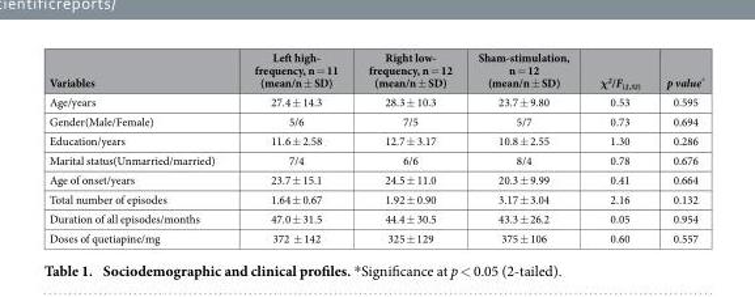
<table><thead><tr><td>Variables</td><td>Left high- frequency, n = 11 (mean/n ± SD)</td><td>Right low- frequency, n = 12 (mean/n ± SD)</td><td>Sham-stimulation, n = 12 (mean/n ± SD)</td><td>χ<sup>2</sup>/F<sub>(2,32)</sub></td><td>p value*</td></tr></thead><tbody><tr><td>Age/years</td><td>27.4 ± 14.3</td><td>28.3 ± 10.3</td><td>23.7 ± 9.80</td><td>0.53</td><td>0.595</td></tr><tr><td>Gender(Male/Female)</td><td>5/6</td><td>7/5</td><td>5/7</td><td>0.73</td><td>0.694</td></tr><tr><td>Education/years</td><td>11.6 ± 2.58</td><td>12.7 ± 3.17</td><td>10.8 ± 2.55</td><td>1.30</td><td>0.286</td></tr><tr><td>Marital status(Unmarried/married)</td><td>7/4</td><td>6/6</td><td>8/4</td><td>0.78</td><td>0.676</td></tr><tr><td>Age of onset/years</td><td>23.7 ± 15.1</td><td>24.5 ± 11.0</td><td>20.3 ± 9.99</td><td>0.41</td><td>0.664</td></tr><tr><td>Total number of episodes</td><td>1.64 ± 0.67</td><td>1.92 ± 0.90</td><td>3.17 ± 3.04</td><td>2.16</td><td>0.132</td></tr><tr><td>Duration of all episodes/months</td><td>47.0 ± 31.5</td><td>44.4 ± 30.5</td><td>43.3 ± 26.2</td><td>0.05</td><td>0.954</td></tr><tr><td>Doses of quetiapine/mg</td><td>372 ± 142</td><td>325 ± 129</td><td>375 ± 106</td><td>0.60</td><td>0.557</td></tr></tbody></table>